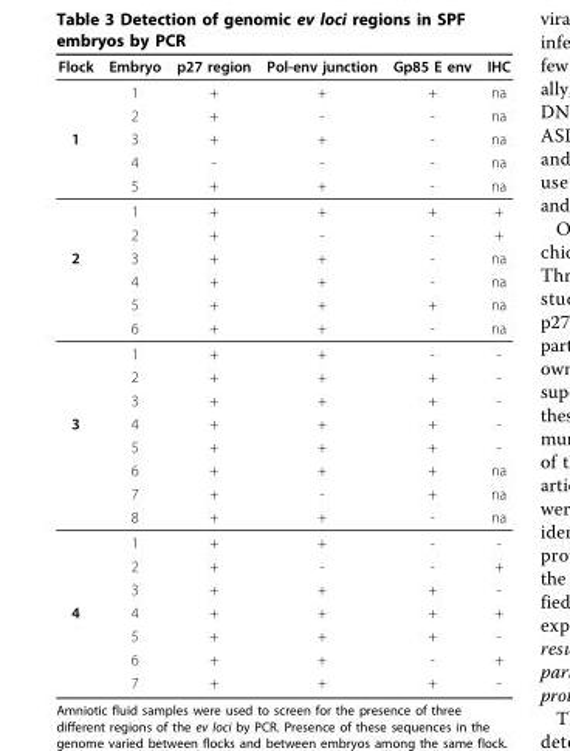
<table><thead><tr><td>Flock</td><td>Embryo</td><td>p27 region</td><td>Pol-env junction</td><td>Gp85 E env</td><td>IHC</td></tr></thead><tbody><tr><td rowspan="5">1</td><td>1</td><td>+</td><td>+</td><td>+</td><td>na</td></tr><tr><td>2</td><td>+</td><td>-</td><td>-</td><td>na</td></tr><tr><td>3</td><td>+</td><td>+</td><td>-</td><td>na</td></tr><tr><td>4</td><td>-</td><td>-</td><td>-</td><td>na</td></tr><tr><td>5</td><td>+</td><td>+</td><td>-</td><td>na</td></tr><tr><td rowspan="6">2</td><td>1</td><td>+</td><td>+</td><td>+</td><td>+</td></tr><tr><td>2</td><td>+</td><td>-</td><td>-</td><td>+</td></tr><tr><td>3</td><td>+</td><td>+</td><td>-</td><td>na</td></tr><tr><td>4</td><td>+</td><td>+</td><td>-</td><td>na</td></tr><tr><td>5</td><td>+</td><td>+</td><td>+</td><td>na</td></tr><tr><td>6</td><td>+</td><td>+</td><td>-</td><td>na</td></tr><tr><td rowspan="8">3</td><td>1</td><td>+</td><td>+</td><td>-</td><td>-</td></tr><tr><td>2</td><td>+</td><td>+</td><td>+</td><td>-</td></tr><tr><td>3</td><td>+</td><td>+</td><td>+</td><td>-</td></tr><tr><td>4</td><td>+</td><td>+</td><td>+</td><td>-</td></tr><tr><td>5</td><td>+</td><td>+</td><td>+</td><td>-</td></tr><tr><td>6</td><td>+</td><td>+</td><td>+</td><td>na</td></tr><tr><td>7</td><td>+</td><td>-</td><td>+</td><td>na</td></tr><tr><td>8</td><td>+</td><td>+</td><td>-</td><td>na</td></tr><tr><td rowspan="7">4</td><td>1</td><td>+</td><td>+</td><td>-</td><td>-</td></tr><tr><td>2</td><td>+</td><td>-</td><td>-</td><td>+</td></tr><tr><td>3</td><td>+</td><td>+</td><td>+</td><td>-</td></tr><tr><td>4</td><td>+</td><td>+</td><td>+</td><td>+</td></tr><tr><td>5</td><td>+</td><td>+</td><td>+</td><td>-</td></tr><tr><td>6</td><td>+</td><td>+</td><td>-</td><td>+</td></tr><tr><td>7</td><td>+</td><td>+</td><td>+</td><td>-</td></tr></tbody></table>